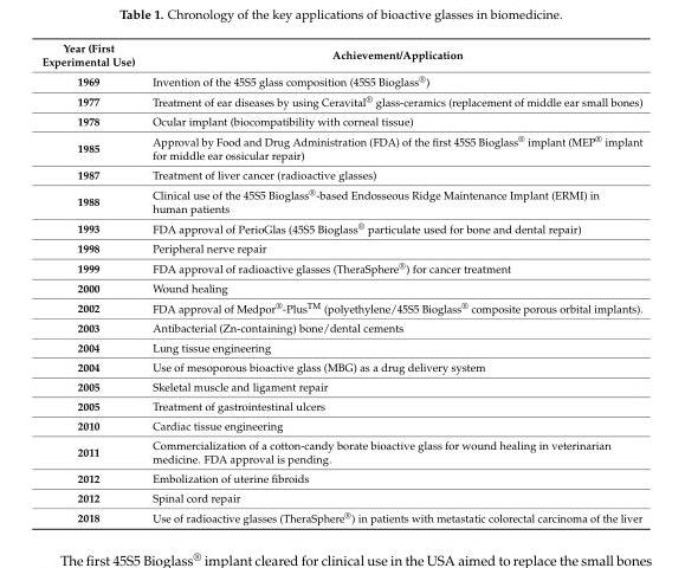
<table><thead><tr><td>Year (First Experimental Use)</td><td>Achievement/Application</td></tr></thead><tbody><tr><td>1969</td><td>Invention of the 45S5 glass composition (45S5 Bioglass<sup>®</sup>)</td></tr><tr><td>1977</td><td>Treatment of ear diseases by using Ceravital<sup>®</sup> glass-ceramics (replacement of middle ear small bones)</td></tr><tr><td>1978</td><td>Ocular implant (biocompatibility with corneal tissue)</td></tr><tr><td>1985</td><td>Approval by Food and Drug Administration (FDA) of the first 45S5 Bioglass<sup>®</sup> implant (MEP<sup>®</sup> implant for middle ear ossicular repair)</td></tr><tr><td>1987</td><td>Treatment of liver cancer (radioactive glasses)</td></tr><tr><td>1988</td><td>Clinical use of the 45S5 Bioglass<sup>®</sup>-based Endosseous Ridge Maintenance Implant (ERMI) in human patients</td></tr><tr><td>1993</td><td>FDA approval of PerioGlas (45S5 Bioglass<sup>®</sup> particulate used for bone and dental repair)</td></tr><tr><td>1998</td><td>Peripheral nerve repair</td></tr><tr><td>1999</td><td>FDA approval of radioactive glasses (TheraSphere<sup>®</sup>) for cancer treatment</td></tr><tr><td>2000</td><td>Wound healing</td></tr><tr><td>2002</td><td>FDA approval of Medpor<sup>®</sup>-Plus<sup>TM</sup> (polyethylene/45S5 Bioglass<sup>®</sup> composite porous orbital implants).</td></tr><tr><td>2003</td><td>Antibacterial (Zn-containing) bone/dental cements</td></tr><tr><td>2004</td><td>Lung tissue engineering</td></tr><tr><td>2004</td><td>Use of mesoporous bioactive glass (MBG) as a drug delivery system</td></tr><tr><td>2005</td><td>Skeletal muscle and ligament repair</td></tr><tr><td>2005</td><td>Treatment of gastrointestinal ulcers</td></tr><tr><td>2010</td><td>Cardiac tissue engineering</td></tr><tr><td>2011</td><td>Commercialization of a cotton-candy borate bioactive glass for wound healing in veterinarian medicine. FDA approval is pending.</td></tr><tr><td>2012</td><td>Embolization of uterine fibroids</td></tr><tr><td>2012</td><td>Spinal cord repair</td></tr><tr><td>2018</td><td>Use of radioactive glasses (TheraSphere<sup>®</sup>) in patients with metastatic colorectal carcinoma of the liver</td></tr></tbody></table>